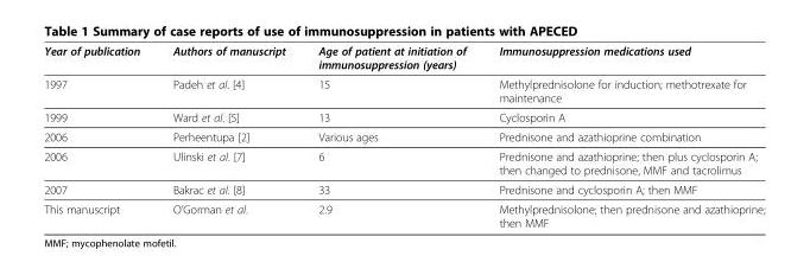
<table><thead><tr><td>Year of publication</td><td>Authors of manuscript</td><td>Age of patient at initiation of immunosuppression (years)</td><td>Immunosuppression medications used</td></tr></thead><tbody><tr><td>1997</td><td>Padeh et al. [4]</td><td>15</td><td>Methylprednisolone for induction; methotrexate for maintenance</td></tr><tr><td>1999</td><td>Ward et al. [5]</td><td>13</td><td>Cyclosporin A</td></tr><tr><td>2006</td><td>Perheentupa [2]</td><td>Various ages</td><td>Prednisone and azathioprine combination</td></tr><tr><td>2006</td><td>Ulinski et al. [7]</td><td>6</td><td>Prednisone and azathioprine; then plus cyclosporin A; then changed to prednisone, MMF and tacrolimus</td></tr><tr><td>2007</td><td>Bakrac et al. [8]</td><td>33</td><td>Prednisone and cyclosporin A; then MMF</td></tr><tr><td>This manuscript</td><td>O’Gorman et al.</td><td>2.9</td><td>Methylprednisolone; then prednisone and azathioprine; then MMF</td></tr></tbody></table>